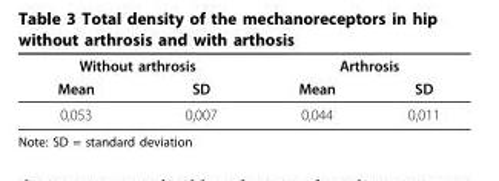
<table><thead><tr><td colspan="2">Without arthrosis</td><td colspan="2">Arthrosis</td></tr><tr><td>Mean</td><td>SD</td><td>Mean</td><td>SD</td></tr></thead><tbody><tr><td>0,053</td><td>0,007</td><td>0,044</td><td>0,011</td></tr></tbody></table>